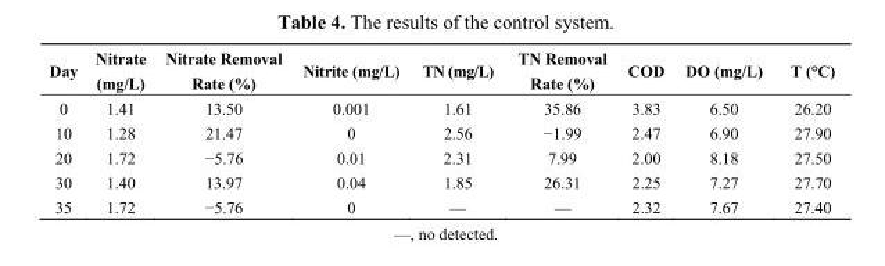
<table><thead><tr><td>Day</td><td>Nitrate (mg/L)</td><td>Nitrate Removal Rate (%)</td><td>Nitrite (mg/L)</td><td>TN (mg/L)</td><td>TN Removal Rate (%)</td><td>COD</td><td>DO (mg/L)</td><td>T (°C)</td></tr></thead><tbody><tr><td>0</td><td>1.41</td><td>13.50</td><td>0.001</td><td>1.61</td><td>35.86</td><td>3.83</td><td>6.50</td><td>26.20</td></tr><tr><td>10</td><td>1.28</td><td>21.47</td><td>0</td><td>2.56</td><td>−1.99</td><td>2.47</td><td>6.90</td><td>27.90</td></tr><tr><td>20</td><td>1.72</td><td>−5.76</td><td>0.01</td><td>2.31</td><td>7.99</td><td>2.00</td><td>8.18</td><td>27.50</td></tr><tr><td>30</td><td>1.40</td><td>13.97</td><td>0.04</td><td>1.85</td><td>26.31</td><td>2.25</td><td>7.27</td><td>27.70</td></tr><tr><td>35</td><td>1.72</td><td>−5.76</td><td>0</td><td>—</td><td>—</td><td>2.32</td><td>7.67</td><td>27.40</td></tr></tbody></table>